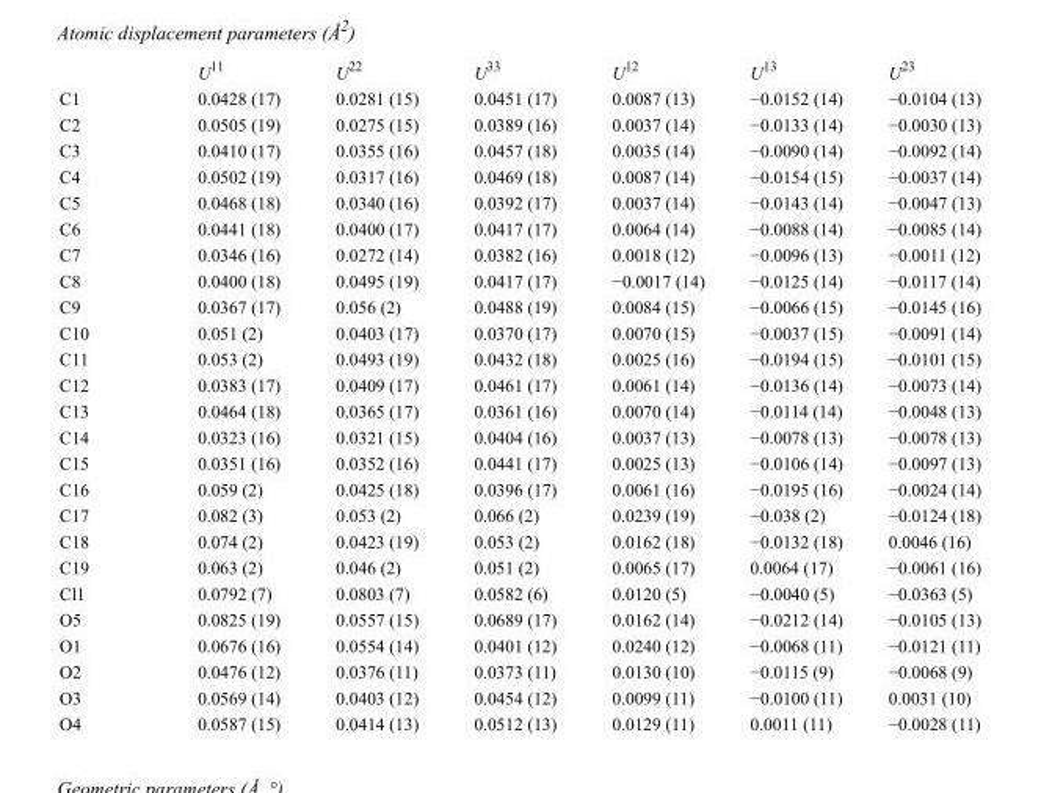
<table><thead><tr><td></td><td>U<sup>11</sup></td><td>U<sup>22</sup></td><td>U<sup>33</sup></td><td>U<sup>12</sup></td><td>U<sup>13</sup></td><td>U<sup>23</sup></td></tr></thead><tbody><tr><td>C1</td><td>0.0428 (17)</td><td>0.0281 (15)</td><td>0.0451 (17)</td><td>0.0087 (13)</td><td>−0.0152 (14)</td><td>−0.0104 (13)</td></tr><tr><td>C2</td><td>0.0505 (19)</td><td>0.0275 (15)</td><td>0.0389 (16)</td><td>0.0037 (14)</td><td>−0.0133 (14)</td><td>−0.0030 (13)</td></tr><tr><td>C3</td><td>0.0410 (17)</td><td>0.0355 (16)</td><td>0.0457 (18)</td><td>0.0035 (14)</td><td>−0.0090 (14)</td><td>−0.0092 (14)</td></tr><tr><td>C4</td><td>0.0502 (19)</td><td>0.0317 (16)</td><td>0.0469 (18)</td><td>0.0087 (14)</td><td>−0.0154 (15)</td><td>−0.0037 (14)</td></tr><tr><td>C5</td><td>0.0468 (18)</td><td>0.0340 (16)</td><td>0.0392 (17)</td><td>0.0037 (14)</td><td>−0.0143 (14)</td><td>−0.0047 (13)</td></tr><tr><td>C6</td><td>0.0441 (18)</td><td>0.0400 (17)</td><td>0.0417 (17)</td><td>0.0064 (14)</td><td>−0.0088 (14)</td><td>−0.0085 (14)</td></tr><tr><td>C7</td><td>0.0346 (16)</td><td>0.0272 (14)</td><td>0.0382 (16)</td><td>0.0018 (12)</td><td>−0.0096 (13)</td><td>−0.0011 (12)</td></tr><tr><td>C8</td><td>0.0400 (18)</td><td>0.0495 (19)</td><td>0.0417 (17)</td><td>−0.0017 (14)</td><td>−0.0125 (14)</td><td>−0.0117 (14)</td></tr><tr><td>C9</td><td>0.0367 (17)</td><td>0.056 (2)</td><td>0.0488 (19)</td><td>0.0084 (15)</td><td>−0.0066 (15)</td><td>−0.0145 (16)</td></tr><tr><td>C10</td><td>0.051 (2)</td><td>0.0403 (17)</td><td>0.0370 (17)</td><td>0.0070 (15)</td><td>−0.0037 (15)</td><td>−0.0091 (14)</td></tr><tr><td>C11</td><td>0.053 (2)</td><td>0.0493 (19)</td><td>0.0432 (18)</td><td>0.0025 (16)</td><td>−0.0194 (15)</td><td>−0.0101 (15)</td></tr><tr><td>C12</td><td>0.0383 (17)</td><td>0.0409 (17)</td><td>0.0461 (17)</td><td>0.0061 (14)</td><td>−0.0136 (14)</td><td>−0.0073 (14)</td></tr><tr><td>C13</td><td>0.0464 (18)</td><td>0.0365 (17)</td><td>0.0361 (16)</td><td>0.0070 (14)</td><td>−0.0114 (14)</td><td>−0.0048 (13)</td></tr><tr><td>C14</td><td>0.0323 (16)</td><td>0.0321 (15)</td><td>0.0404 (16)</td><td>0.0037 (13)</td><td>−0.0078 (13)</td><td>−0.0078 (13)</td></tr><tr><td>C15</td><td>0.0351 (16)</td><td>0.0352 (16)</td><td>0.0441 (17)</td><td>0.0025 (13)</td><td>−0.0106 (14)</td><td>−0.0097 (13)</td></tr><tr><td>C16</td><td>0.059 (2)</td><td>0.0425 (18)</td><td>0.0396 (17)</td><td>0.0061 (16)</td><td>−0.0195 (16)</td><td>−0.0024 (14)</td></tr><tr><td>C17</td><td>0.082 (3)</td><td>0.053 (2)</td><td>0.066 (2)</td><td>0.0239 (19)</td><td>−0.038 (2)</td><td>−0.0124 (18)</td></tr><tr><td>C18</td><td>0.074 (2)</td><td>0.0423 (19)</td><td>0.053 (2)</td><td>0.0162 (18)</td><td>−0.0132 (18)</td><td>0.0046 (16)</td></tr><tr><td>C19</td><td>0.063 (2)</td><td>0.046 (2)</td><td>0.051 (2)</td><td>0.0065 (17)</td><td>0.0064 (17)</td><td>−0.0061 (16)</td></tr><tr><td>Cl1</td><td>0.0792 (7)</td><td>0.0803 (7)</td><td>0.0582 (6)</td><td>0.0120 (5)</td><td>−0.0040 (5)</td><td>−0.0363 (5)</td></tr><tr><td>O5</td><td>0.0825 (19)</td><td>0.0557 (15)</td><td>0.0689 (17)</td><td>0.0162 (14)</td><td>−0.0212 (14)</td><td>−0.0105 (13)</td></tr><tr><td>O1</td><td>0.0676 (16)</td><td>0.0554 (14)</td><td>0.0401 (12)</td><td>0.0240 (12)</td><td>−0.0068 (11)</td><td>−0.0121 (11)</td></tr><tr><td>O2</td><td>0.0476 (12)</td><td>0.0376 (11)</td><td>0.0373 (11)</td><td>0.0130 (10)</td><td>−0.0115 (9)</td><td>−0.0068 (9)</td></tr><tr><td>O3</td><td>0.0569 (14)</td><td>0.0403 (12)</td><td>0.0454 (12)</td><td>0.0099 (11)</td><td>−0.0100 (11)</td><td>0.0031 (10)</td></tr><tr><td>O4</td><td>0.0587 (15)</td><td>0.0414 (13)</td><td>0.0512 (13)</td><td>0.0129 (11)</td><td>0.0011 (11)</td><td>−0.0028 (11)</td></tr></tbody></table>